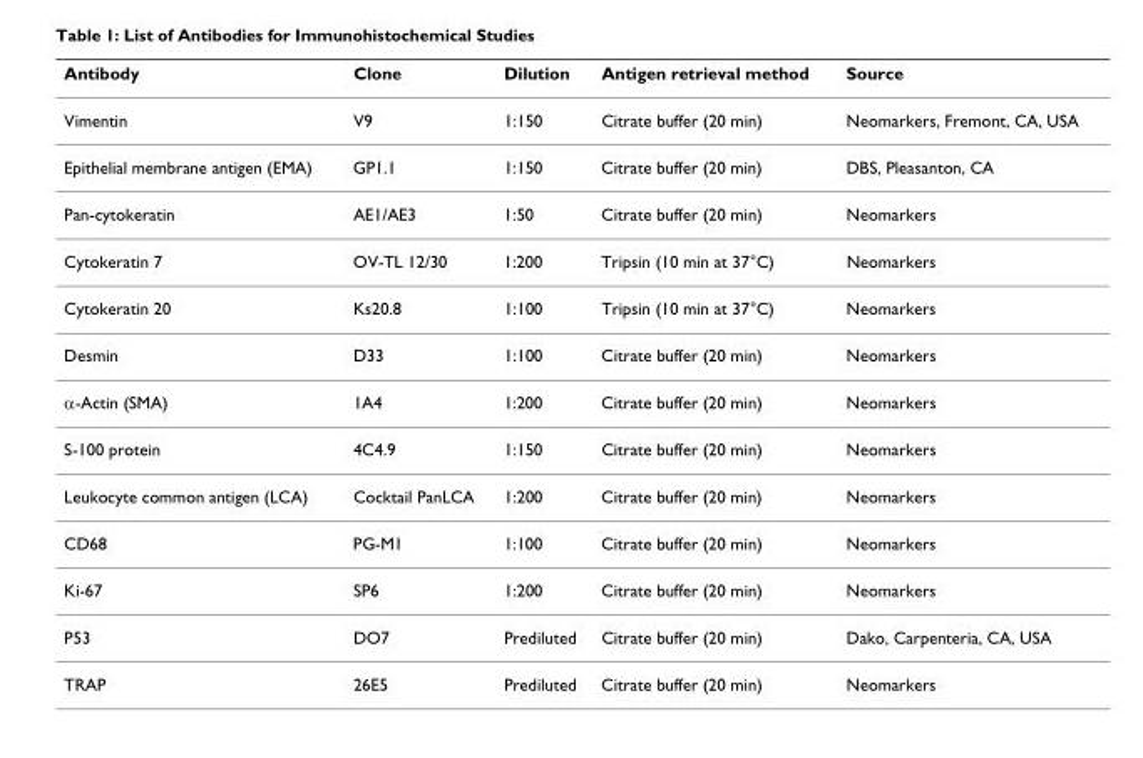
<table><thead><tr><td>Antibody</td><td>Clone</td><td>Dilution</td><td>Antigen retrieval method</td><td>Source</td></tr></thead><tbody><tr><td>Vimentin</td><td>V9</td><td>1:150</td><td>Citrate buffer (20 min)</td><td>Neomarkers, Fremont, CA, USA</td></tr><tr><td>Epithelial membrane antigen (EMA)</td><td>GP1.1</td><td>1:150</td><td>Citrate buffer (20 min)</td><td>DBS, Pleasanton, CA</td></tr><tr><td>Pan-cytokeratin</td><td>AE1/AE3</td><td>1:50</td><td>Citrate buffer (20 min)</td><td>Neomarkers</td></tr><tr><td>Cytokeratin 7</td><td>OV-TL 12/30</td><td>1:200</td><td>Tripsin (10 min at 37°C)</td><td>Neomarkers</td></tr><tr><td>Cytokeratin 20</td><td>Ks20.8</td><td>1:100</td><td>Tripsin (10 min at 37°C)</td><td>Neomarkers</td></tr><tr><td>Desmin</td><td>D33</td><td>1:100</td><td>Citrate buffer (20 min)</td><td>Neomarkers</td></tr><tr><td>α-Actin (SMA)</td><td>1A4</td><td>1:200</td><td>Citrate buffer (20 min)</td><td>Neomarkers</td></tr><tr><td>S-100 protein</td><td>4C4.9</td><td>1:150</td><td>Citrate buffer (20 min)</td><td>Neomarkers</td></tr><tr><td>Leukocyte common antigen (LCA)</td><td>Cocktail PanLCA</td><td>1:200</td><td>Citrate buffer (20 min)</td><td>Neomarkers</td></tr><tr><td>CD68</td><td>PG-M1</td><td>1:100</td><td>Citrate buffer (20 min)</td><td>Neomarkers</td></tr><tr><td>Ki-67</td><td>SP6</td><td>1:200</td><td>Citrate buffer (20 min)</td><td>Neomarkers</td></tr><tr><td>P53</td><td>DO7</td><td>Prediluted</td><td>Citrate buffer (20 min)</td><td>Dako, Carpenteria, CA, USA</td></tr><tr><td>TRAP</td><td>26E5</td><td>Prediluted</td><td>Citrate buffer (20 min)</td><td>Neomarkers</td></tr></tbody></table>